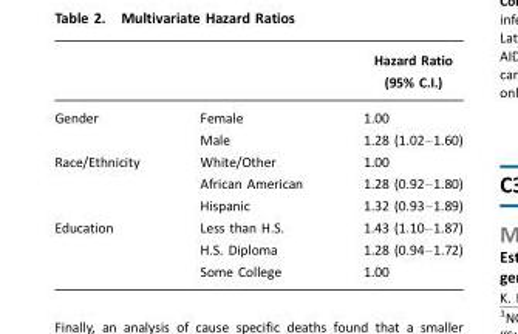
<table><thead><tr><td></td><td></td><td>Hazard Ratio (95% C.I.)</td></tr></thead><tbody><tr><td rowspan="2">Gender</td><td>Female</td><td>1.00</td></tr><tr><td>Male</td><td>1.28 (1.02–1.60)</td></tr><tr><td rowspan="3">Race/Ethnicity</td><td>White/Other</td><td>1.00</td></tr><tr><td>African American</td><td>1.28 (0.92–1.80)</td></tr><tr><td>Hispanic</td><td>1.32 (0.93–1.89)</td></tr><tr><td rowspan="3">Education</td><td>Less than H.S.</td><td>1.43 (1.10–1.87)</td></tr><tr><td>H.S. Diploma</td><td>1.28 (0.94–1.72)</td></tr><tr><td>Some College</td><td>1.00</td></tr></tbody></table>